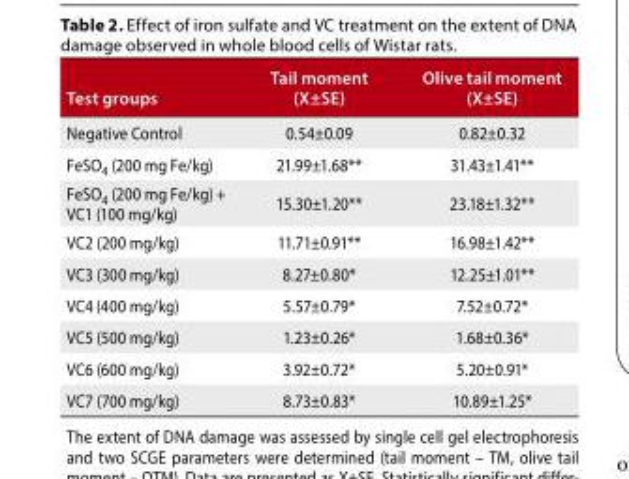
<table><thead><tr><td>Test groups</td><td>Tail moment (X±SE)</td><td>Olive tail moment (X±SE)</td></tr></thead><tbody><tr><td>Negative Control</td><td>0.54±0.09</td><td>0.82±0.32</td></tr><tr><td>FeSO<sub>4</sub> (200 mg Fe/kg)</td><td>21.99±1.68**</td><td>31.43±1.41**</td></tr><tr><td>FeSO<sub>4</sub> (200 mg Fe/kg) + VC1 (100 mg/kg)</td><td>15.30±1.20**</td><td>23.18±1.32**</td></tr><tr><td>VC2 (200 mg/kg)</td><td>11.71±0.91**</td><td>16.98±1.42**</td></tr><tr><td>VC3 (300 mg/kg)</td><td>8.27±0.80*</td><td>12.25±1.01**</td></tr><tr><td>VC4 (400 mg/kg)</td><td>5.57±0.79*</td><td>7.52±0.72*</td></tr><tr><td>VC5 (500 mg/kg)</td><td>1.23±0.26*</td><td>1.68±0.36*</td></tr><tr><td>VC6 (600 mg/kg)</td><td>3.92±0.72*</td><td>5.20±0.91*</td></tr><tr><td>VC7 (700 mg/kg)</td><td>8.73±0.83*</td><td>10.89±1.25*</td></tr></tbody></table>